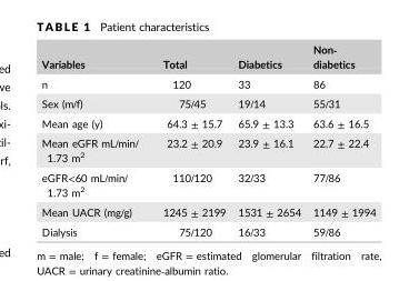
<table><thead><tr><td>Variables</td><td>Total</td><td>Diabetics</td><td>Non‐ diabetics</td></tr></thead><tbody><tr><td>n</td><td>120</td><td>33</td><td>86</td></tr><tr><td>Sex (m/f)</td><td>75/45</td><td>19/14</td><td>55/31</td></tr><tr><td>Mean age (y)</td><td>64.3 ± 15.7</td><td>65.9 ± 13.3</td><td>63.6 ± 16.5</td></tr><tr><td>Mean eGFR mL/min/ 1.73 m<sup>2</sup></td><td>23.2 ± 20.9</td><td>23.9 ± 16.1</td><td>22.7 ± 22.4</td></tr><tr><td>eGFR&lt;60 mL/min/ 1.73 m<sup>2</sup></td><td>110/120</td><td>32/33</td><td>77/86</td></tr><tr><td>Mean UACR (mg/g)</td><td>1245 ± 2199</td><td>1531 ± 2654</td><td>1149 ± 1994</td></tr><tr><td>Dialysis</td><td>75/120</td><td>16/33</td><td>59/86</td></tr></tbody></table>